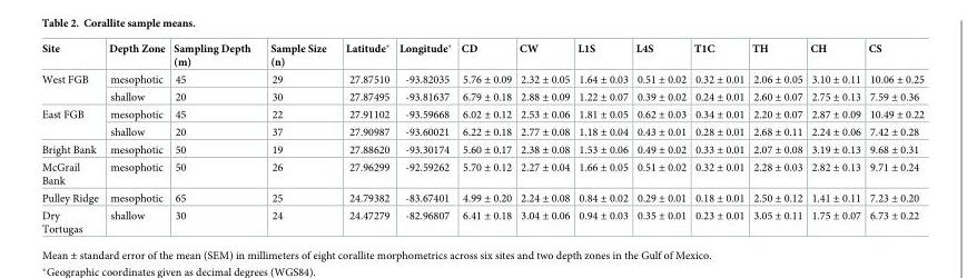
<table><thead><tr><td>Site</td><td>Depth Zone</td><td>Sampling Depth (m)</td><td>Sample Size (n)</td><td>Latitude*</td><td>Longitude*</td><td>CD</td><td>CW</td><td>L1S</td><td>L4S</td><td>T1C</td><td>TH</td><td>CH</td><td>CS</td></tr></thead><tbody><tr><td rowspan="2">West FGB</td><td>mesophotic</td><td>45</td><td>29</td><td>27.87510</td><td>-93.82035</td><td>5.76 ± 0.09</td><td>2.32 ± 0.05</td><td>1.64 ± 0.03</td><td>0.51 ± 0.02</td><td>0.32 ± 0.01</td><td>2.06 ± 0.05</td><td>3.10 ± 0.11</td><td>10.06 ± 0.25</td></tr><tr><td>shallow</td><td>20</td><td>30</td><td>27.87495</td><td>-93.81637</td><td>6.79 ± 0.18</td><td>2.88 ± 0.09</td><td>1.22 ± 0.07</td><td>0.39 ± 0.02</td><td>0.24 ± 0.01</td><td>2.60 ± 0.07</td><td>2.75 ± 0.13</td><td>7.59 ± 0.36</td></tr><tr><td rowspan="2">East FGB</td><td>mesophotic</td><td>45</td><td>22</td><td>27.91102</td><td>-93.59668</td><td>6.02 ± 0.12</td><td>2.53 ± 0.06</td><td>1.81 ± 0.05</td><td>0.62 ± 0.03</td><td>0.34 ± 0.01</td><td>2.20 ± 0.07</td><td>2.87 ± 0.09</td><td>10.49 ± 0.22</td></tr><tr><td>shallow</td><td>20</td><td>37</td><td>27.90987</td><td>-93.60021</td><td>6.22 ± 0.18</td><td>2.77 ± 0.08</td><td>1.18 ± 0.04</td><td>0.43 ± 0.01</td><td>0.28 ± 0.01</td><td>2.68 ± 0.11</td><td>2.24 ± 0.06</td><td>7.42 ± 0.28</td></tr><tr><td>Bright Bank</td><td>mesophotic</td><td>50</td><td>19</td><td>27.88620</td><td>-93.30174</td><td>5.60 ± 0.17</td><td>2.38 ± 0.08</td><td>1.53 ± 0.06</td><td>0.49 ± 0.02</td><td>0.33 ± 0.01</td><td>2.07 ± 0.08</td><td>3.19 ± 0.13</td><td>9.68 ± 0.31</td></tr><tr><td>McGrail Bank</td><td>mesophotic</td><td>50</td><td>26</td><td>27.96299</td><td>-92.59262</td><td>5.70 ± 0.12</td><td>2.27 ± 0.04</td><td>1.66 ± 0.05</td><td>0.51 ± 0.02</td><td>0.32 ± 0.01</td><td>2.28 ± 0.03</td><td>2.82 ± 0.13</td><td>9.71 ± 0.24</td></tr><tr><td>Pulley Ridge</td><td>mesophotic</td><td>65</td><td>25</td><td>24.79382</td><td>-83.67401</td><td>4.99 ± 0.20</td><td>2.24 ± 0.08</td><td>0.84 ± 0.02</td><td>0.29 ± 0.01</td><td>0.18 ± 0.01</td><td>2.50 ± 0.12</td><td>1.41 ± 0.11</td><td>7.23 ± 0.20</td></tr><tr><td>Dry Tortugas</td><td>shallow</td><td>30</td><td>24</td><td>24.47279</td><td>-82.96807</td><td>6.41 ± 0.18</td><td>3.04 ± 0.06</td><td>0.94 ± 0.03</td><td>0.35 ± 0.01</td><td>0.23 ± 0.01</td><td>3.05 ± 0.11</td><td>1.75 ± 0.07</td><td>6.73 ± 0.22</td></tr></tbody></table>